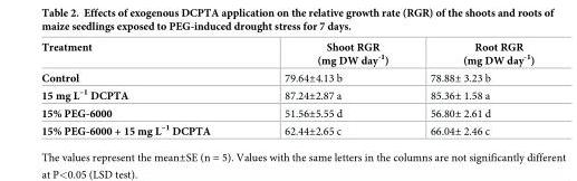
<table><thead><tr><td>Treatment</td><td>Shoot RGR (mg DW day<sup>-1</sup>)</td><td>Root RGR (mg DW day<sup>-1</sup>)</td></tr></thead><tbody><tr><td>Control</td><td>79.64±4.13 b</td><td>78.88± 3.23 b</td></tr><tr><td>15 mg L<sup>–1</sup> DCPTA</td><td>87.24±2.87 a</td><td>85.36± 1.58 a</td></tr><tr><td>15% PEG-6000</td><td>51.56±5.55 d</td><td>56.80± 2.61 d</td></tr><tr><td>15% PEG-6000 + 15 mg L<sup>–1</sup> DCPTA</td><td>62.44±2.65 c</td><td>66.04± 2.46 c</td></tr></tbody></table>